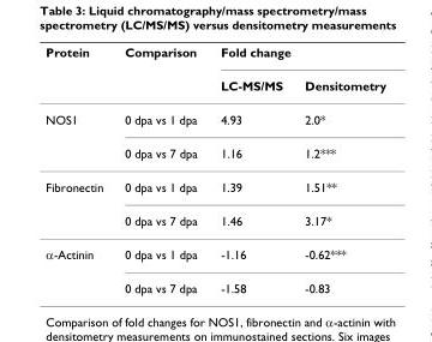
<table><thead><tr><td rowspan="2">Protein</td><td rowspan="2">Comparison</td><td colspan="2">Fold change</td></tr><tr><td>LC-MS/MS</td><td>Densitometry</td></tr></thead><tbody><tr><td rowspan="2">NOS1</td><td>0 dpa vs 1 dpa</td><td>4.93</td><td>2.0*</td></tr><tr><td>0 dpa vs 7 dpa</td><td>1.16</td><td>1.2***</td></tr><tr><td rowspan="2">Fibronectin</td><td>0 dpa vs 1 dpa</td><td>1.39</td><td>1.51**</td></tr><tr><td>0 dpa vs 7 dpa</td><td>1.46</td><td>3.17*</td></tr><tr><td rowspan="2">α-Actinin</td><td>0 dpa vs 1 dpa</td><td>-1.16</td><td>-0.62***</td></tr><tr><td>0 dpa vs 7 dpa</td><td>-1.58</td><td>-0.83</td></tr></tbody></table>